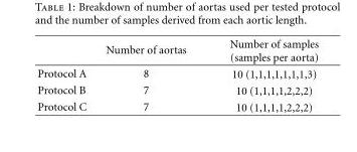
<table><thead><tr><td></td><td>Number of aortas</td><td>Number of samples (samples per aorta)</td></tr></thead><tbody><tr><td>Protocol A</td><td>8</td><td>10 (1,1,1,1,1,1,1,3)</td></tr><tr><td>Protocol B</td><td>7</td><td>10 (1,1,1,1,2,2,2)</td></tr><tr><td>Protocol C</td><td>7</td><td>10 (1,1,1,1,2,2,2)</td></tr></tbody></table>